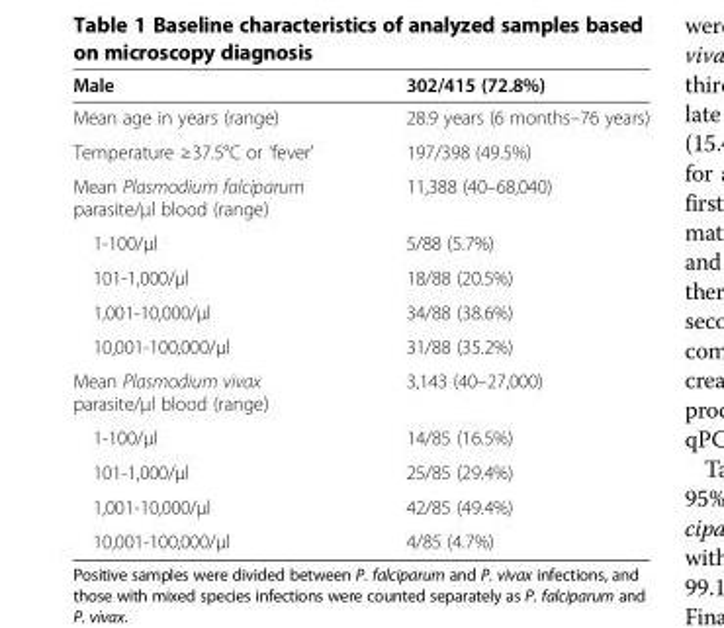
<table><thead><tr><td>Male</td><td>302/415 (72.8%)</td></tr></thead><tbody><tr><td>Mean age in years (range)</td><td>28.9 years (6 months–76 years)</td></tr><tr><td>Temperature ≥37.5°C or ‘fever’</td><td>197/398 (49.5%)</td></tr><tr><td>Mean Plasmodium falciparum parasite/μl blood (range)</td><td>11,388 (40–68,040)</td></tr><tr><td>1-100/μl</td><td>5/88 (5.7%)</td></tr><tr><td>101-1,000/μl</td><td>18/88 (20.5%)</td></tr><tr><td>1,001-10,000/μl</td><td>34/88 (38.6%)</td></tr><tr><td>10,001-100,000/μl</td><td>31/88 (35.2%)</td></tr><tr><td>Mean Plasmodium vivax parasite/μl blood (range)</td><td>3,143 (40–27,000)</td></tr><tr><td>1-100/μl</td><td>14/85 (16.5%)</td></tr><tr><td>101-1,000/μl</td><td>25/85 (29.4%)</td></tr><tr><td>1,001-10,000/μl</td><td>42/85 (49.4%)</td></tr><tr><td>10,001-100,000/μl</td><td>4/85 (4.7%)</td></tr></tbody></table>